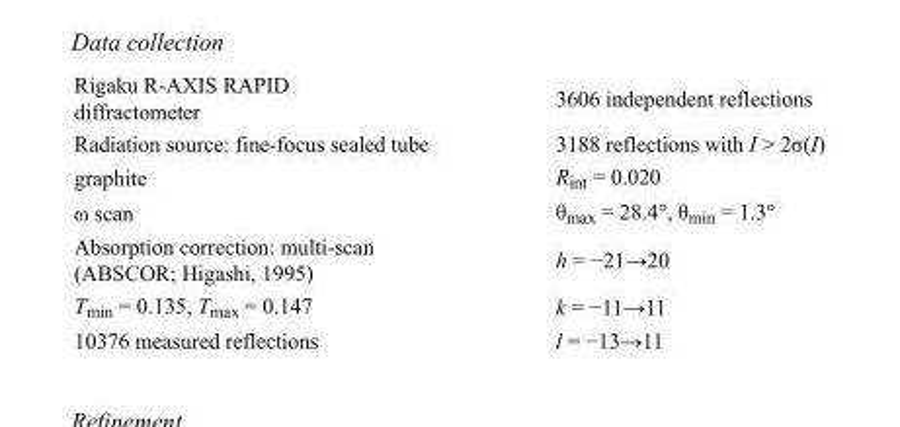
<table><tbody><tr><td>Rigaku R-AXIS RAPID diffractometer</td><td>3606 independent reflections</td></tr><tr><td>Radiation source: fine-focus sealed tube</td><td>3188 reflections with I &gt; 2σ(I)</td></tr><tr><td>graphite</td><td>R<sub>int</sub> = 0.020</td></tr><tr><td>ω scan</td><td>θ<sub>max</sub> = 28.4°, θ<sub>min</sub> = 1.3°</td></tr><tr><td>Absorption correction: multi-scan (ABSCOR; Higashi, 1995)</td><td>h = −21→20</td></tr><tr><td>T<sub>min</sub> = 0.135, T<sub>max</sub> = 0.147</td><td>k = −11→11</td></tr><tr><td>10376 measured reflections</td><td>l = −13→11</td></tr></tbody></table>